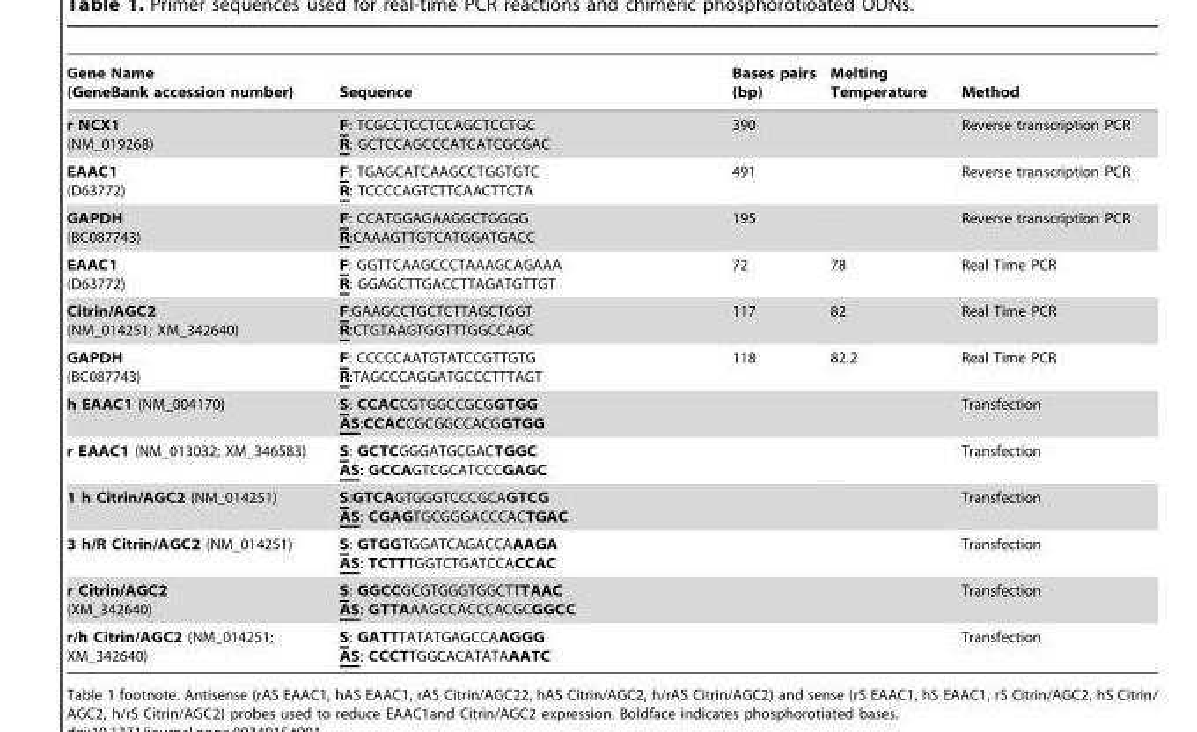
<table><thead><tr><td>Gene Name (GeneBank accession number)</td><td>Sequence</td><td>Bases pairs (bp)</td><td>Melting Temperature</td><td>Method</td></tr></thead><tbody><tr><td>r NCX1 (NM_019268)</td><td>F: TCGCCTCCTCCAGCTCCTGC R: GCTCCAGCCCATCATCGCGAC</td><td>390</td><td></td><td>Reverse transcription PCR</td></tr><tr><td>EAAC1 (D63772)</td><td>F: TGAGCATCAAGCCTGGTGTC R: TCCCCAGTCTTCAACTTCTA</td><td>491</td><td></td><td>Reverse transcription PCR</td></tr><tr><td>GAPDH (BC087743)</td><td>F: CCATGGAGAAGGCTGGGG R:CAAAGTTGTCATGGATGACC</td><td>195</td><td></td><td>Reverse transcription PCR</td></tr><tr><td>EAAC1 (D63772)</td><td>F: GGTTCAAGCCCTAAAGCAGAAA R: GGAGCTTGACCTTAGATGTTGT</td><td>72</td><td>78</td><td>Real Time PCR</td></tr><tr><td>Citrin/AGC2 (NM_014251; XM_342640)</td><td>F:GAAGCCTGCTCTTAGCTGGT R:CTGTAAGTGGTTTGGCCAGC</td><td>117</td><td>82</td><td>Real Time PCR</td></tr><tr><td>GAPDH (BC087743)</td><td>F: CCCCCAATGTATCCGTTGTG R:TAGCCCAGGATGCCCTTTAGT</td><td>118</td><td>82.2</td><td>Real Time PCR</td></tr><tr><td>h EAAC1 (NM_004170)</td><td>S: CCACCGTGGCCGCGGTGG AS:CCACCGCGGCCACGGTGG</td><td></td><td></td><td>Transfection</td></tr><tr><td>r EAAC1 (NM_013032; XM_346583)</td><td>S: GCTCGGGATGCGACTGGC AS: GCCAGTCGCATCCCGAGC</td><td></td><td></td><td>Transfection</td></tr><tr><td>1 h Citrin/AGC2 (NM_014251)</td><td>S:GTCAGTGGGTCCCGCAGTCG AS: CGAGTGCGGGACCCACTGAC</td><td></td><td></td><td>Transfection</td></tr><tr><td>3 h/R Citrin/AGC2 (NM_014251)</td><td>S: GTGGTGGATCAGACCAAAGA AS: TCTTTGGTCTGATCCACCAC</td><td></td><td></td><td>Transfection</td></tr><tr><td>r Citrin/AGC2 (XM_342640)</td><td>S: GGCCGCGTGGGTGGCTTTAAC AS: GTTAAAGCCACCCACGCGGCC</td><td></td><td></td><td>Transfection</td></tr><tr><td>r/h Citrin/AGC2 (NM_014251; XM_342640)</td><td>S: GATTTATATGAGCCAAGGG AS: CCCTTGGCACATATAAATC</td><td></td><td></td><td>Transfection</td></tr></tbody></table>